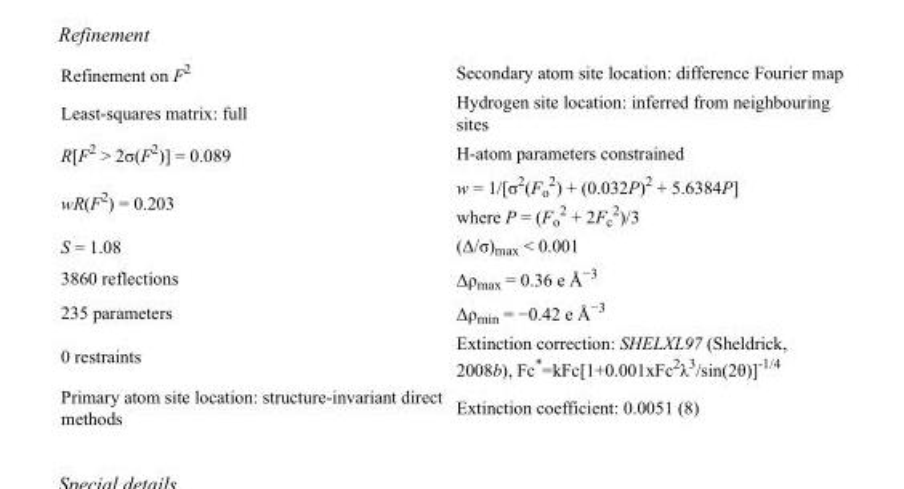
<table><tbody><tr><td>Refinement on F<sup>2</sup></td><td>Secondary atom site location: difference Fourier map</td></tr><tr><td>Least-squares matrix: full</td><td>Hydrogen site location: inferred from neighbouring sites</td></tr><tr><td>R[F<sup>2</sup> &gt; 2σ(F<sup>2</sup>)] = 0.089</td><td>H-atom parameters constrained</td></tr><tr><td>wR(F<sup>2</sup>) = 0.203</td><td>w = 1/[σ<sup>2</sup>(F<sub>o</sub> <sup>2</sup>) + (0.032P)<sup>2</sup> + 5.6384P] where P = (F<sub>o</sub> <sup>2</sup> + 2F<sub>c</sub> <sup>2</sup>)/3</td></tr><tr><td>S = 1.08</td><td>(Δ/σ)<sub>max</sub> &lt; 0.001</td></tr><tr><td>3860 reflections</td><td>Δρ<sub>max</sub> = 0.36 e Å<sup>−3</sup></td></tr><tr><td>235 parameters</td><td>Δρ<sub>min</sub> = −0.42 e Å<sup>−3</sup></td></tr><tr><td>0 restraints</td><td>Extinction correction: SHELXL97 (Sheldrick, 2008b), Fc*=kFc[1+0.001xFc<sup>2</sup>λ<sup>3</sup>/sin(2θ)]<sup>-1/4</sup></td></tr><tr><td>Primary atom site location: structure-invariant direct methods</td><td>Extinction coefficient: 0.0051 (8)</td></tr></tbody></table>